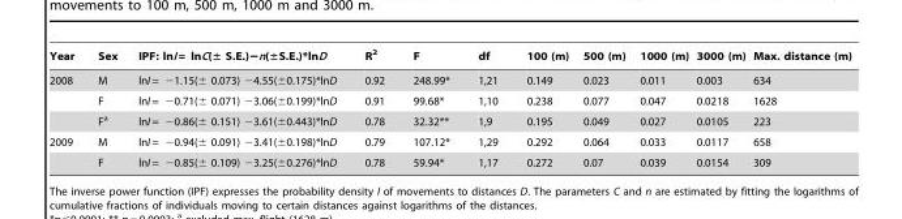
<table><thead><tr><td>Year</td><td>Sex</td><td>IPF: lnI = lnC(± S.E.)−n(±S.E.)*lnD</td><td>R<sup>2</sup></td><td>F</td><td>df</td><td>100 (m)</td><td>500 (m)</td><td>1000 (m)</td><td>3000 (m)</td><td>Max. distance (m)</td></tr></thead><tbody><tr><td rowspan="3">2008</td><td>M</td><td>lnI = −1.15(± 0.073) −4.55(±0.175)*lnD</td><td>0.92</td><td>248.99*</td><td>1,21</td><td>0.149</td><td>0.023</td><td>0.011</td><td>0.003</td><td>634</td></tr><tr><td>F</td><td>lnI = −0.71(± 0.071) −3.06(±0.199)*lnD</td><td>0.91</td><td>99.68*</td><td>1,10</td><td>0.238</td><td>0.077</td><td>0.047</td><td>0.0218</td><td>1628</td></tr><tr><td>F<sup>a</sup></td><td>lnI = −0.86(± 0.151) −3.61(±0.443)*lnD</td><td>0.78</td><td>32.32**</td><td>1,9</td><td>0.195</td><td>0.049</td><td>0.027</td><td>0.0105</td><td>223</td></tr><tr><td rowspan="2">2009</td><td>M</td><td>lnI = −0.94(± 0.091) −3.41(±0.198)*lnD</td><td>0.79</td><td>107.12*</td><td>1,29</td><td>0.292</td><td>0.064</td><td>0.033</td><td>0.0117</td><td>658</td></tr><tr><td>F</td><td>lnI = −0.85(± 0.109) −3.25(±0.276)*lnD</td><td>0.78</td><td>59.94*</td><td>1,17</td><td>0.272</td><td>0.07</td><td>0.039</td><td>0.0154</td><td>309</td></tr></tbody></table>